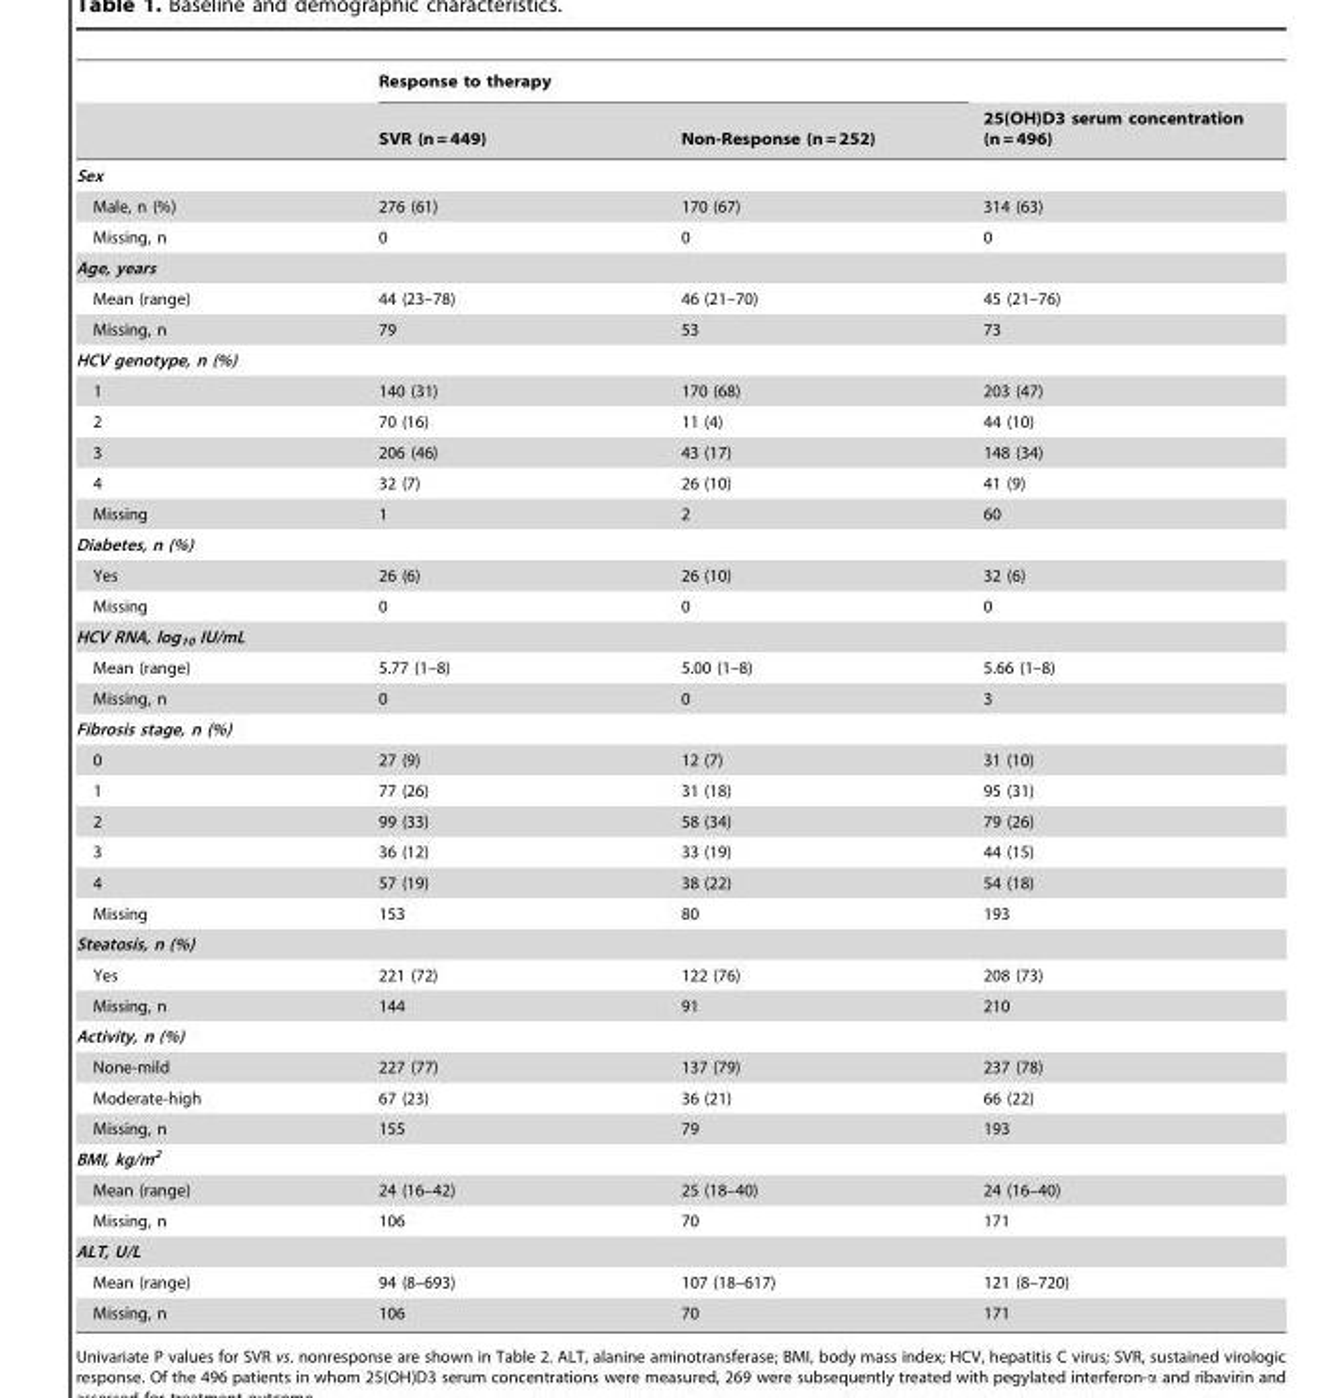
<table><thead><tr><td rowspan="2"></td><td colspan="2">Response to therapy</td><td rowspan="2">25(OH)D3 serum concentration (n = 496)</td></tr><tr><td>SVR (n = 449)</td><td>Non-Response (n = 252)</td></tr></thead><tbody><tr><td colspan="4">Sex</td></tr><tr><td>Male, n (%)</td><td>276 (61)</td><td>170 (67)</td><td>314 (63)</td></tr><tr><td>Missing, n</td><td>0</td><td>0</td><td>0</td></tr><tr><td colspan="4">Age, years</td></tr><tr><td>Mean (range)</td><td>44 (23–78)</td><td>46 (21–70)</td><td>45 (21–76)</td></tr><tr><td>Missing, n</td><td>79</td><td>53</td><td>73</td></tr><tr><td colspan="4">HCV genotype, n (%)</td></tr><tr><td>1</td><td>140 (31)</td><td>170 (68)</td><td>203 (47)</td></tr><tr><td>2</td><td>70 (16)</td><td>11 (4)</td><td>44 (10)</td></tr><tr><td>3</td><td>206 (46)</td><td>43 (17)</td><td>148 (34)</td></tr><tr><td>4</td><td>32 (7)</td><td>26 (10)</td><td>41 (9)</td></tr><tr><td>Missing</td><td>1</td><td>2</td><td>60</td></tr><tr><td colspan="4">Diabetes, n (%)</td></tr><tr><td>Yes</td><td>26 (6)</td><td>26 (10)</td><td>32 (6)</td></tr><tr><td>Missing</td><td>0</td><td>0</td><td>0</td></tr><tr><td colspan="4">HCV RNA, log<sub>10</sub> IU/mL</td></tr><tr><td>Mean (range)</td><td>5.77 (1–8)</td><td>5.00 (1–8)</td><td>5.66 (1–8)</td></tr><tr><td>Missing, n</td><td>0</td><td>0</td><td>3</td></tr><tr><td colspan="4">Fibrosis stage, n (%)</td></tr><tr><td>0</td><td>27 (9)</td><td>12 (7)</td><td>31 (10)</td></tr><tr><td>1</td><td>77 (26)</td><td>31 (18)</td><td>95 (31)</td></tr><tr><td>2</td><td>99 (33)</td><td>58 (34)</td><td>79 (26)</td></tr><tr><td>3</td><td>36 (12)</td><td>33 (19)</td><td>44 (15)</td></tr><tr><td>4</td><td>57 (19)</td><td>38 (22)</td><td>54 (18)</td></tr><tr><td>Missing</td><td>153</td><td>80</td><td>193</td></tr><tr><td colspan="4">Steatosis, n (%)</td></tr><tr><td>Yes</td><td>221 (72)</td><td>122 (76)</td><td>208 (73)</td></tr><tr><td>Missing, n</td><td>144</td><td>91</td><td>210</td></tr><tr><td colspan="4">Activity, n (%)</td></tr><tr><td>None-mild</td><td>227 (77)</td><td>137 (79)</td><td>237 (78)</td></tr><tr><td>Moderate-high</td><td>67 (23)</td><td>36 (21)</td><td>66 (22)</td></tr><tr><td>Missing, n</td><td>155</td><td>79</td><td>193</td></tr><tr><td colspan="4">BMI, kg/m<sup>2</sup></td></tr><tr><td>Mean (range)</td><td>24 (16–42)</td><td>25 (18–40)</td><td>24 (16–40)</td></tr><tr><td>Missing, n</td><td>106</td><td>70</td><td>171</td></tr><tr><td colspan="4">ALT, U/L</td></tr><tr><td>Mean (range)</td><td>94 (8–693)</td><td>107 (18–617)</td><td>121 (8–720)</td></tr><tr><td>Missing, n</td><td>106</td><td>70</td><td>171</td></tr></tbody></table>